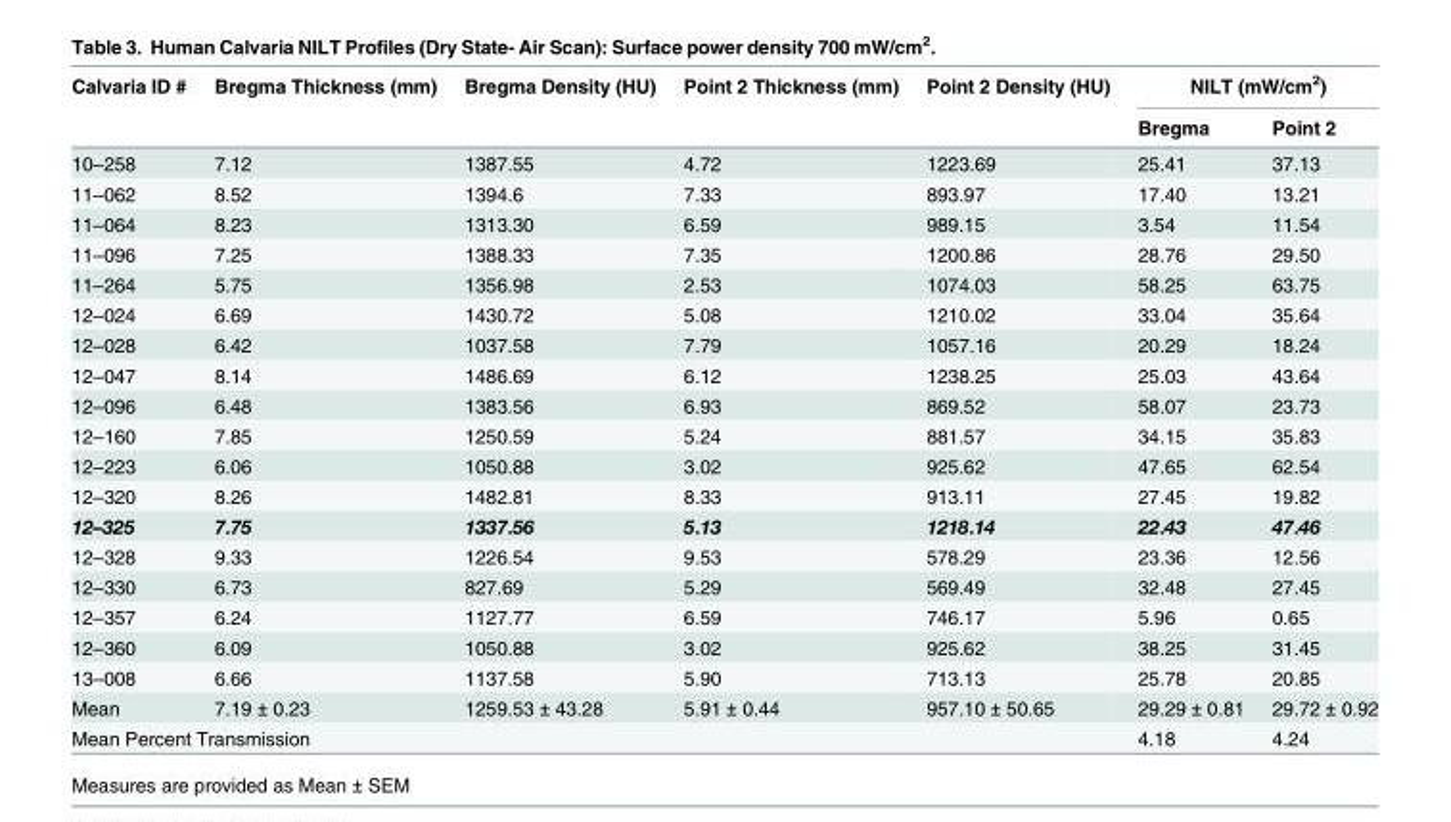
<table><thead><tr><td rowspan="2">Calvaria ID #</td><td rowspan="2">Bregma Thickness (mm)</td><td rowspan="2">Bregma Density (HU)</td><td rowspan="2">Point 2 Thickness (mm)</td><td rowspan="2">Point 2 Density (HU)</td><td colspan="2">NILT (mW/cm<sup>2</sup>)</td></tr><tr><td>Bregma</td><td>Point 2</td></tr></thead><tbody><tr><td>10–258</td><td>7.12</td><td>1387.55</td><td>4.72</td><td>1223.69</td><td>25.41</td><td>37.13</td></tr><tr><td>11–062</td><td>8.52</td><td>1394.6</td><td>7.33</td><td>893.97</td><td>17.40</td><td>13.21</td></tr><tr><td>11–064</td><td>8.23</td><td>1313.30</td><td>6.59</td><td>989.15</td><td>3.54</td><td>11.54</td></tr><tr><td>11–096</td><td>7.25</td><td>1388.33</td><td>7.35</td><td>1200.86</td><td>28.76</td><td>29.50</td></tr><tr><td>11–264</td><td>5.75</td><td>1356.98</td><td>2.53</td><td>1074.03</td><td>58.25</td><td>63.75</td></tr><tr><td>12–024</td><td>6.69</td><td>1430.72</td><td>5.08</td><td>1210.02</td><td>33.04</td><td>35.64</td></tr><tr><td>12–028</td><td>6.42</td><td>1037.58</td><td>7.79</td><td>1057.16</td><td>20.29</td><td>18.24</td></tr><tr><td>12–047</td><td>8.14</td><td>1486.69</td><td>6.12</td><td>1238.25</td><td>25.03</td><td>43.64</td></tr><tr><td>12–096</td><td>6.48</td><td>1383.56</td><td>6.93</td><td>869.52</td><td>58.07</td><td>23.73</td></tr><tr><td>12–160</td><td>7.85</td><td>1250.59</td><td>5.24</td><td>881.57</td><td>34.15</td><td>35.83</td></tr><tr><td>12–223</td><td>6.06</td><td>1050.88</td><td>3.02</td><td>925.62</td><td>47.65</td><td>62.54</td></tr><tr><td>12–320</td><td>8.26</td><td>1482.81</td><td>8.33</td><td>913.11</td><td>27.45</td><td>19.82</td></tr><tr><td>12–325</td><td>7.75</td><td>1337.56</td><td>5.13</td><td>1218.14</td><td>22.43</td><td>47.46</td></tr><tr><td>12–328</td><td>9.33</td><td>1226.54</td><td>9.53</td><td>578.29</td><td>23.36</td><td>12.56</td></tr><tr><td>12–330</td><td>6.73</td><td>827.69</td><td>5.29</td><td>569.49</td><td>32.48</td><td>27.45</td></tr><tr><td>12–357</td><td>6.24</td><td>1127.77</td><td>6.59</td><td>746.17</td><td>5.96</td><td>0.65</td></tr><tr><td>12–360</td><td>6.09</td><td>1050.88</td><td>3.02</td><td>925.62</td><td>38.25</td><td>31.45</td></tr><tr><td>13–008</td><td>6.66</td><td>1137.58</td><td>5.90</td><td>713.13</td><td>25.78</td><td>20.85</td></tr><tr><td>Mean</td><td>7.19 ± 0.23</td><td>1259.53 ± 43.28</td><td>5.91 ± 0.44</td><td>957.10 ± 50.65</td><td>29.29 ± 0.81</td><td>29.72 ± 0.92</td></tr><tr><td colspan="5">Mean Percent Transmission</td><td>4.18</td><td>4.24</td></tr></tbody></table>